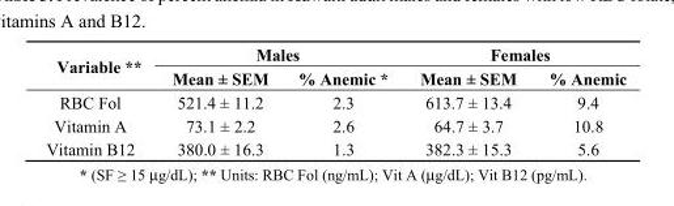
<table><thead><tr><td rowspan="2">Variable **</td><td colspan="2">Males</td><td colspan="2">Females</td></tr><tr><td>Mean ± SEM</td><td>% Anemic *</td><td>Mean ± SEM</td><td>% Anemic</td></tr></thead><tbody><tr><td>RBC Fol</td><td>521.4 ± 11.2</td><td>2.3</td><td>613.7 ± 13.4</td><td>9.4</td></tr><tr><td>Vitamin A</td><td>73.1 ± 2.2</td><td>2.6</td><td>64.7 ± 3.7</td><td>10.8</td></tr><tr><td>Vitamin B12</td><td>380.0 ± 16.3</td><td>1.3</td><td>382.3 ± 15.3</td><td>5.6</td></tr></tbody></table>